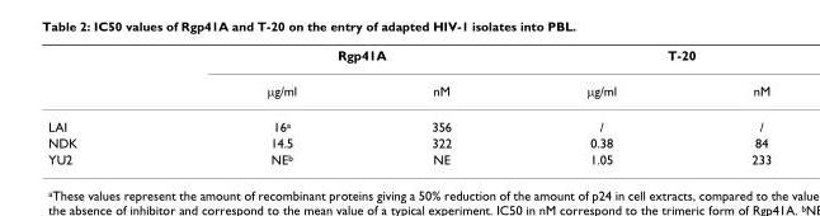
<table><thead><tr><td rowspan="2"></td><td colspan="2">Rgp41A</td><td colspan="2">T-20</td></tr><tr><td>µg/ml</td><td>nM</td><td>µg/ml</td><td>nM</td></tr></thead><tbody><tr><td>LAI</td><td>16<sup>a</sup></td><td>356</td><td>/</td><td>/</td></tr><tr><td>NDK</td><td>14.5</td><td>322</td><td>0.38</td><td>84</td></tr><tr><td>YU2</td><td>NE<sup>b</sup></td><td>NE</td><td>1.05</td><td>233</td></tr></tbody></table>